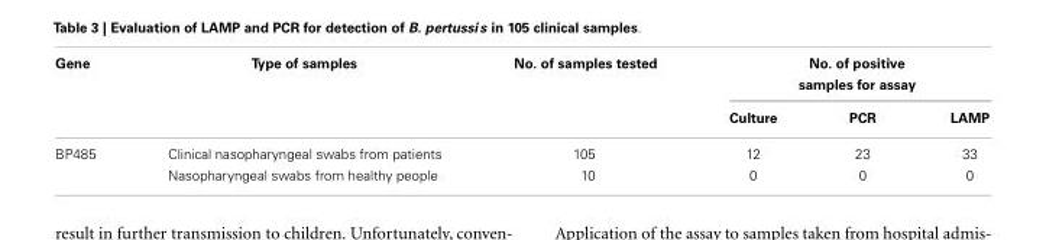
<table><thead><tr><td rowspan="2">Gene</td><td rowspan="2">Type of samples</td><td rowspan="2">No. of samples tested</td><td colspan="3">No. of positive samples for assay</td></tr><tr><td>Culture</td><td>PCR</td><td>LAMP</td></tr></thead><tbody><tr><td rowspan="2">BP485</td><td>Clinical nasopharyngeal swabs from patients</td><td>105</td><td>12</td><td>23</td><td>33</td></tr><tr><td>Nasopharyngeal swabs from healthy people</td><td>10</td><td>0</td><td>0</td><td>0</td></tr></tbody></table>